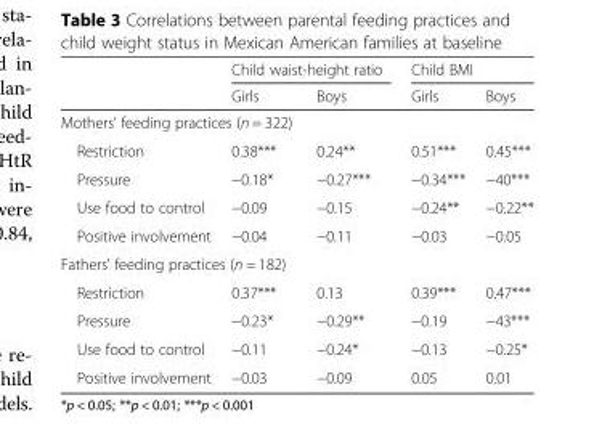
<table><thead><tr><td rowspan="2"></td><td colspan="2">Child waist-height ratio</td><td colspan="2">Child BMI</td></tr><tr><td>Girls</td><td>Boys</td><td>Girls</td><td>Boys</td></tr></thead><tbody><tr><td colspan="5">Mothers’ feeding practices (n = 322)</td></tr><tr><td>Restriction</td><td>0.38***</td><td>0.24**</td><td>0.51***</td><td>0.45***</td></tr><tr><td>Pressure</td><td>−0.18*</td><td>−0.27***</td><td>−0.34***</td><td>−40***</td></tr><tr><td>Use food to control</td><td>−0.09</td><td>−0.15</td><td>−0.24**</td><td>−0.22**</td></tr><tr><td>Positive involvement</td><td>−0.04</td><td>−0.11</td><td>−0.03</td><td>−0.05</td></tr><tr><td colspan="5">Fathers’ feeding practices (n = 182)</td></tr><tr><td>Restriction</td><td>0.37***</td><td>0.13</td><td>0.39***</td><td>0.47***</td></tr><tr><td>Pressure</td><td>−0.23*</td><td>−0.29**</td><td>−0.19</td><td>−43***</td></tr><tr><td>Use food to control</td><td>−0.11</td><td>−0.24*</td><td>−0.13</td><td>−0.25*</td></tr><tr><td>Positive involvement</td><td>−0.03</td><td>−0.09</td><td>0.05</td><td>0.01</td></tr></tbody></table>